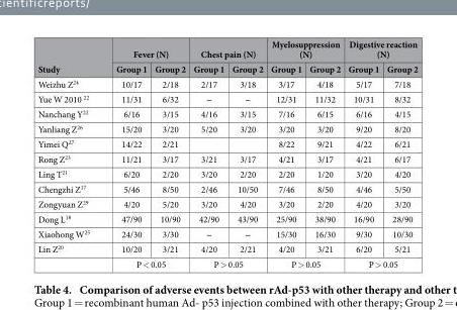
<table><thead><tr><td rowspan="2">Study</td><td colspan="2">Fever (N)</td><td colspan="2">Chest pain (N)</td><td colspan="2">Myelosuppression (N)</td><td colspan="2">Digestive reaction (N)</td></tr><tr><td>Group 1</td><td>Group 2</td><td>Group 1</td><td>Group 2</td><td>Group 1</td><td>Group 2</td><td>Group 1</td><td>Group 2</td></tr></thead><tbody><tr><td>Weizhu Z<sup>24</sup></td><td>10/17</td><td>2/18</td><td>2/17</td><td>3/18</td><td>3/17</td><td>4/18</td><td>5/17</td><td>7/18</td></tr><tr><td>Yue W 2010 <sup>22</sup></td><td>11/31</td><td>6/32</td><td>‒</td><td>‒</td><td>12/31</td><td>11/32</td><td>10/31</td><td>8/32</td></tr><tr><td>Nanchang Y<sup>22</sup></td><td>6/16</td><td>3/15</td><td>4/16</td><td>3/15</td><td>7/16</td><td>6/15</td><td>6/16</td><td>4/15</td></tr><tr><td>Yanliang Z<sup>26</sup></td><td>15/20</td><td>3/20</td><td>5/20</td><td>3/20</td><td>3/20</td><td>3/20</td><td>9/20</td><td>8/20</td></tr><tr><td>Yimei Q<sup>27</sup></td><td>14/22</td><td>2/21</td><td></td><td></td><td>8/22</td><td>9/21</td><td>4/22</td><td>6/21</td></tr><tr><td>Rong Z<sup>23</sup></td><td>11/21</td><td>3/17</td><td>3/21</td><td>3/17</td><td>4/21</td><td>3/17</td><td>4/21</td><td>6/17</td></tr><tr><td>Ling T<sup>21</sup></td><td>6/20</td><td>2/20</td><td>3/20</td><td>2/20</td><td>2/20</td><td>1/20</td><td>3/20</td><td>4/20</td></tr><tr><td>Chengzhi Z<sup>17</sup></td><td>5/46</td><td>8/50</td><td>2/46</td><td>10/50</td><td>7/46</td><td>8/50</td><td>4/46</td><td>5/50</td></tr><tr><td>Zongyuan Z<sup>29</sup></td><td>4/20</td><td>5/20</td><td>3/20</td><td>4/20</td><td>3/20</td><td>2/20</td><td>4/20</td><td>3/20</td></tr><tr><td>Dong L<sup>18</sup></td><td>47/90</td><td>10/90</td><td>42/90</td><td>43/90</td><td>25/90</td><td>38/90</td><td>16/90</td><td>28/90</td></tr><tr><td>Xiaohong W<sup>25</sup></td><td>24/30</td><td>3/30</td><td>‒</td><td>‒</td><td>15/30</td><td>16/30</td><td>9/30</td><td>10/30</td></tr><tr><td rowspan="2">Lin Z<sup>20</sup></td><td>10/20</td><td>3/21</td><td>4/20</td><td>2/21</td><td>4/20</td><td>3/21</td><td>6/20</td><td>5/21</td></tr><tr><td colspan="2">P &lt; 0.05</td><td colspan="2">P &gt; 0.05</td><td colspan="2">P &gt; 0.05</td><td colspan="2">P &gt; 0.05</td></tr></tbody></table>